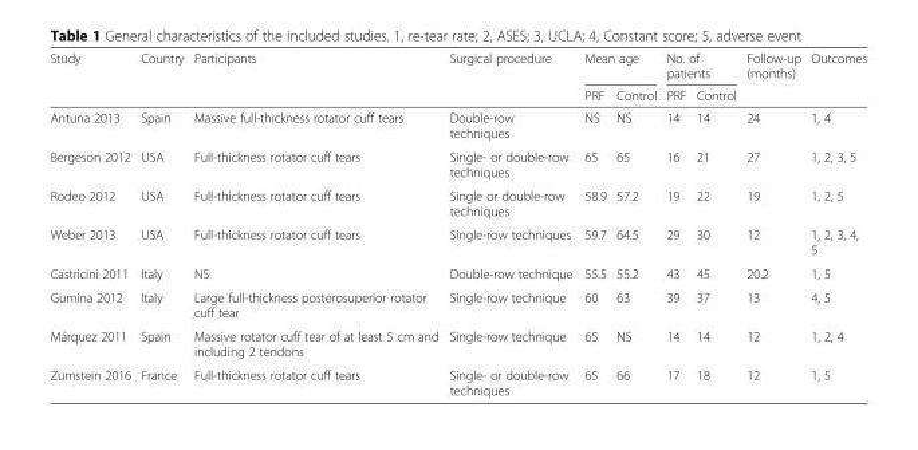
<table><thead><tr><td rowspan="2">Study</td><td rowspan="2">Country</td><td rowspan="2">Participants</td><td rowspan="2">Surgical procedure</td><td colspan="2">Mean age</td><td colspan="2">No. of patients</td><td rowspan="2">Follow-up (months)</td><td rowspan="2">Outcomes</td></tr><tr><td>PRF</td><td>Control</td><td>PRF</td><td>Control</td></tr></thead><tbody><tr><td>Antuna 2013</td><td>Spain</td><td>Massive full-thickness rotator cuff tears</td><td>Double-row techniques</td><td>NS</td><td>NS</td><td>14</td><td>14</td><td>24</td><td>1, 4</td></tr><tr><td>Bergeson 2012</td><td>USA</td><td>Full-thickness rotator cuff tears</td><td>Single- or double-row techniques</td><td>65</td><td>65</td><td>16</td><td>21</td><td>27</td><td>1, 2, 3, 5</td></tr><tr><td>Rodeo 2012</td><td>USA</td><td>Full-thickness rotator cuff tears</td><td>Single or double-row techniques</td><td>58.9</td><td>57.2</td><td>19</td><td>22</td><td>19</td><td>1, 2, 5</td></tr><tr><td>Weber 2013</td><td>USA</td><td>Full-thickness rotator cuff tears</td><td>Single-row techniques</td><td>59.7</td><td>64.5</td><td>29</td><td>30</td><td>12</td><td>1, 2, 3, 4, 5</td></tr><tr><td>Castricini 2011</td><td>Italy</td><td>NS</td><td>Double-row technique</td><td>55.5</td><td>55.2</td><td>43</td><td>45</td><td>20.2</td><td>1, 5</td></tr><tr><td>Gumina 2012</td><td>Italy</td><td>Large full-thickness posterosuperior rotator cuff tear</td><td>Single-row technique</td><td>60</td><td>63</td><td>39</td><td>37</td><td>13</td><td>4, 5</td></tr><tr><td>Márquez 2011</td><td>Spain</td><td>Massive rotator cuff tear of at least 5 cm and including 2 tendons</td><td>Single-row technique</td><td>65</td><td>NS</td><td>14</td><td>14</td><td>12</td><td>1, 2, 4</td></tr><tr><td>Zumstein 2016</td><td>France</td><td>Full-thickness rotator cuff tears</td><td>Single- or double-row techniques</td><td>65</td><td>66</td><td>17</td><td>18</td><td>12</td><td>1, 5</td></tr></tbody></table>